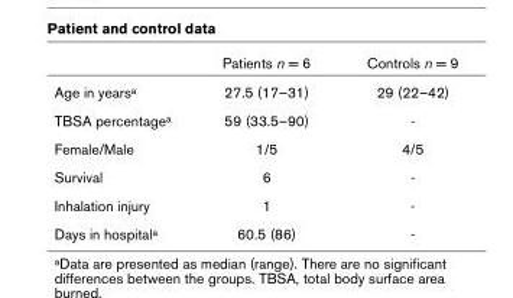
<table><thead><tr><td></td><td>Patients n = 6</td><td>Controls n = 9</td></tr></thead><tbody><tr><td>Age in yearsa</td><td>27.5 (17–31)</td><td>29 (22–42)</td></tr><tr><td>TBSA percentagea</td><td>59 (33.5–90)</td><td>-</td></tr><tr><td>Female/Male</td><td>1/5</td><td>4/5</td></tr><tr><td>Survival</td><td>6</td><td>-</td></tr><tr><td>Inhalation injury</td><td>1</td><td>-</td></tr><tr><td>Days in hospitala</td><td>60.5 (86)</td><td>-</td></tr></tbody></table>